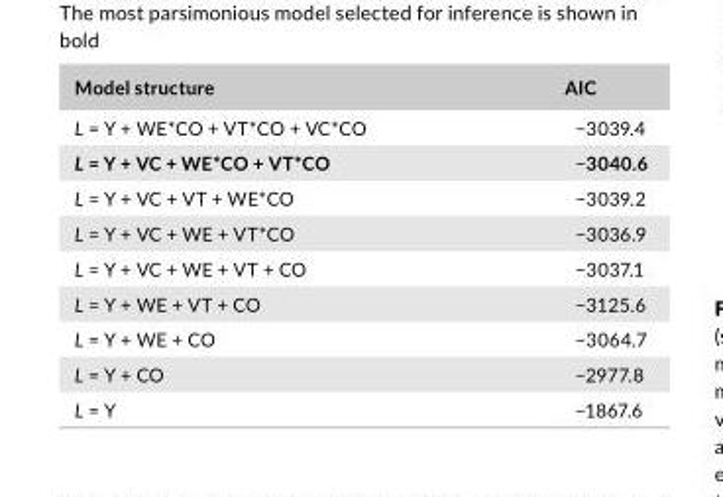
<table><thead><tr><td>Model structure</td><td>AIC</td></tr></thead><tbody><tr><td>L = Y + WE*CO + VT*CO + VC*CO</td><td>−3039.4</td></tr><tr><td>L = Y + VC + WE*CO + VT*CO</td><td>−3040.6</td></tr><tr><td>L = Y + VC + VT + WE*CO</td><td>−3039.2</td></tr><tr><td>L = Y + VC + WE + VT*CO</td><td>−3036.9</td></tr><tr><td>L = Y + VC + WE + VT + CO</td><td>−3037.1</td></tr><tr><td>L = Y + WE + VT + CO</td><td>−3125.6</td></tr><tr><td>L = Y + WE + CO</td><td>−3064.7</td></tr><tr><td>L = Y + CO</td><td>−2977.8</td></tr><tr><td>L = Y</td><td>−1867.6</td></tr></tbody></table>